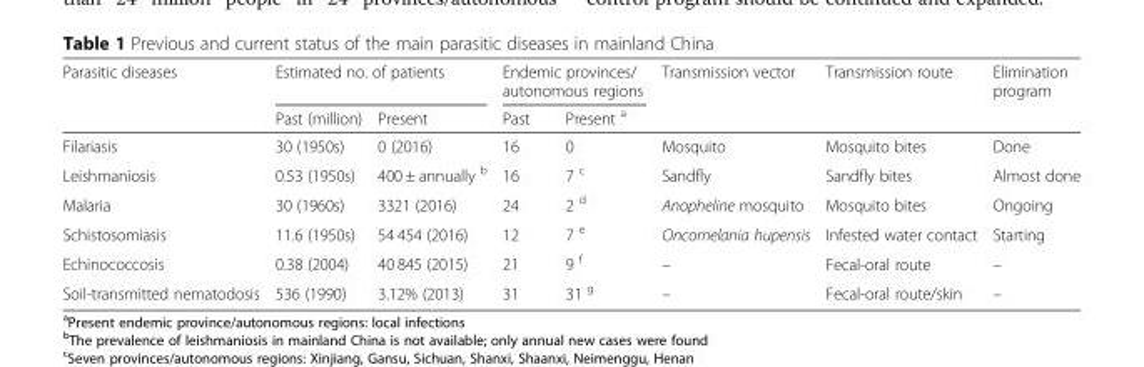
<table><thead><tr><td rowspan="2">Parasitic diseases</td><td colspan="2">Estimated no. of patients</td><td colspan="2">Endemic provinces/ autonomous regions</td><td rowspan="2">Transmission vector</td><td rowspan="2">Transmission route</td><td rowspan="2">Elimination program</td></tr><tr><td>Past (million)</td><td>Present</td><td>Past</td><td>Present <sup>a</sup></td></tr></thead><tbody><tr><td>Filariasis</td><td>30 (1950s)</td><td>0 (2016)</td><td>16</td><td>0</td><td>Mosquito</td><td>Mosquito bites</td><td>Done</td></tr><tr><td>Leishmaniosis</td><td>0.53 (1950s)</td><td>400 ± annually <sup>b</sup></td><td>16</td><td>7 <sup>c</sup></td><td>Sandfly</td><td>Sandfly bites</td><td>Almost done</td></tr><tr><td>Malaria</td><td>30 (1960s)</td><td>3321 (2016)</td><td>24</td><td>2 <sup>d</sup></td><td>Anopheline mosquito</td><td>Mosquito bites</td><td>Ongoing</td></tr><tr><td>Schistosomiasis</td><td>11.6 (1950s)</td><td>54 454 (2016)</td><td>12</td><td>7 <sup>e</sup></td><td>Oncomelania hupensis</td><td>Infested water contact</td><td>Starting</td></tr><tr><td>Echinococcosis</td><td>0.38 (2004)</td><td>40 845 (2015)</td><td>21</td><td>9 <sup>f</sup></td><td>–</td><td>Fecal-oral route</td><td>–</td></tr><tr><td>Soil-transmitted nematodosis</td><td>536 (1990)</td><td>3.12% (2013)</td><td>31</td><td>31 <sup>g</sup></td><td>–</td><td>Fecal-oral route/skin</td><td>–</td></tr></tbody></table>